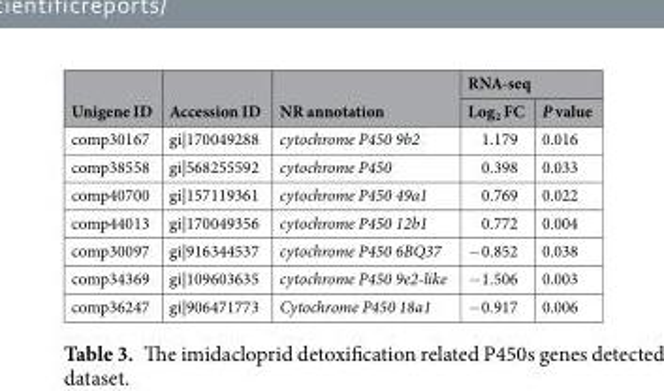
<table><thead><tr><td rowspan="2">Unigene ID</td><td rowspan="2">Accession ID</td><td rowspan="2">NR annotation</td><td colspan="2">RNA-seq</td></tr><tr><td>Log<sub>2</sub> FC</td><td>P value</td></tr></thead><tbody><tr><td>comp30167</td><td>gi|170049288</td><td>cytochrome P450 9b2</td><td>1.179</td><td>0.016</td></tr><tr><td>comp38558</td><td>gi|568255592</td><td>cytochrome P450</td><td>0.398</td><td>0.033</td></tr><tr><td>comp40700</td><td>gi|157119361</td><td>cytochrome P450 49a1</td><td>0.769</td><td>0.022</td></tr><tr><td>comp44013</td><td>gi|170049356</td><td>cytochrome P450 12b1</td><td>0.772</td><td>0.004</td></tr><tr><td>comp30097</td><td>gi|916344537</td><td>cytochrome P450 6BQ37</td><td>−0.852</td><td>0.038</td></tr><tr><td>comp34369</td><td>gi|109603635</td><td>cytochrome P450 9e2-like</td><td>−1.506</td><td>0.003</td></tr><tr><td>comp36247</td><td>gi|906471773</td><td>Cytochrome P450 18a1</td><td>−0.917</td><td>0.006</td></tr></tbody></table>